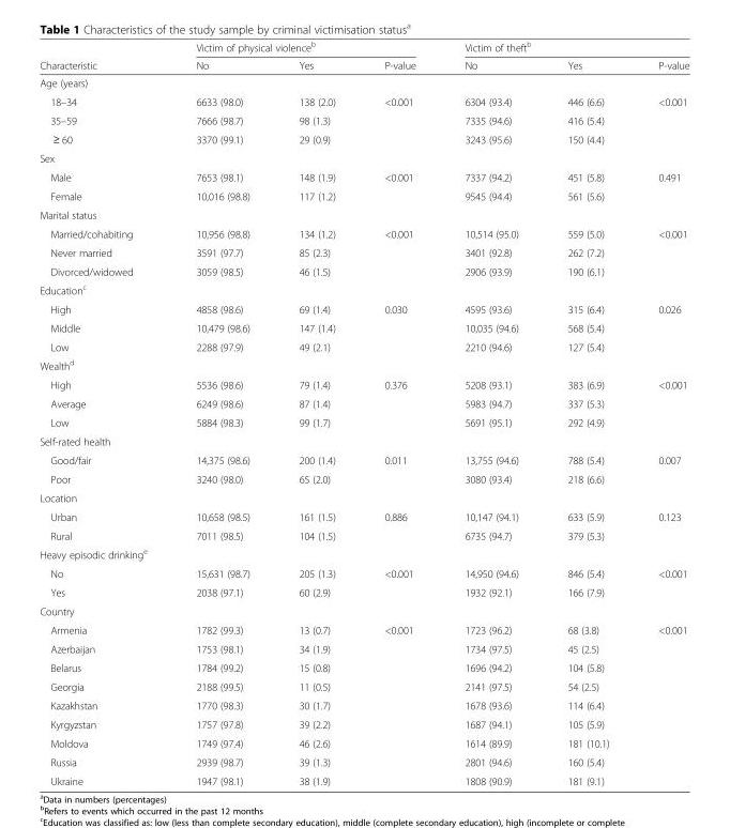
<table><thead><tr><td rowspan="2">Characteristic</td><td colspan="3">Victim of physical violence<sup>b</sup></td><td colspan="3">Victim of theft<sup>b</sup></td></tr><tr><td>No</td><td>Yes</td><td>P-value</td><td>No</td><td>Yes</td><td>P-value</td></tr></thead><tbody><tr><td colspan="7">Age (years)</td></tr><tr><td>18–34</td><td>6633 (98.0)</td><td>138 (2.0)</td><td>&lt;0.001</td><td>6304 (93.4)</td><td>446 (6.6)</td><td>&lt;0.001</td></tr><tr><td>35–59</td><td>7666 (98.7)</td><td>98 (1.3)</td><td></td><td>7335 (94.6)</td><td>416 (5.4)</td><td></td></tr><tr><td>≥ 60</td><td>3370 (99.1)</td><td>29 (0.9)</td><td></td><td>3243 (95.6)</td><td>150 (4.4)</td><td></td></tr><tr><td colspan="7">Sex</td></tr><tr><td>Male</td><td>7653 (98.1)</td><td>148 (1.9)</td><td>&lt;0.001</td><td>7337 (94.2)</td><td>451 (5.8)</td><td>0.491</td></tr><tr><td>Female</td><td>10,016 (98.8)</td><td>117 (1.2)</td><td></td><td>9545 (94.4)</td><td>561 (5.6)</td><td></td></tr><tr><td colspan="7">Marital status</td></tr><tr><td>Married/cohabiting</td><td>10,956 (98.8)</td><td>134 (1.2)</td><td>&lt;0.001</td><td>10,514 (95.0)</td><td>559 (5.0)</td><td>&lt;0.001</td></tr><tr><td>Never married</td><td>3591 (97.7)</td><td>85 (2.3)</td><td></td><td>3401 (92.8)</td><td>262 (7.2)</td><td></td></tr><tr><td>Divorced/widowed</td><td>3059 (98.5)</td><td>46 (1.5)</td><td></td><td>2906 (93.9)</td><td>190 (6.1)</td><td></td></tr><tr><td colspan="7">Education<sup>c</sup></td></tr><tr><td>High</td><td>4858 (98.6)</td><td>69 (1.4)</td><td>0.030</td><td>4595 (93.6)</td><td>315 (6.4)</td><td>0.026</td></tr><tr><td>Middle</td><td>10,479 (98.6)</td><td>147 (1.4)</td><td></td><td>10,035 (94.6)</td><td>568 (5.4)</td><td></td></tr><tr><td>Low</td><td>2288 (97.9)</td><td>49 (2.1)</td><td></td><td>2210 (94.6)</td><td>127 (5.4)</td><td></td></tr><tr><td colspan="7">Wealth<sup>d</sup></td></tr><tr><td>High</td><td>5536 (98.6)</td><td>79 (1.4)</td><td>0.376</td><td>5208 (93.1)</td><td>383 (6.9)</td><td>&lt;0.001</td></tr><tr><td>Average</td><td>6249 (98.6)</td><td>87 (1.4)</td><td></td><td>5983 (94.7)</td><td>337 (5.3)</td><td></td></tr><tr><td>Low</td><td>5884 (98.3)</td><td>99 (1.7)</td><td></td><td>5691 (95.1)</td><td>292 (4.9)</td><td></td></tr><tr><td colspan="7">Self-rated health</td></tr><tr><td>Good/fair</td><td>14,375 (98.6)</td><td>200 (1.4)</td><td>0.011</td><td>13,755 (94.6)</td><td>788 (5.4)</td><td>0.007</td></tr><tr><td>Poor</td><td>3240 (98.0)</td><td>65 (2.0)</td><td></td><td>3080 (93.4)</td><td>218 (6.6)</td><td></td></tr><tr><td colspan="7">Location</td></tr><tr><td>Urban</td><td>10,658 (98.5)</td><td>161 (1.5)</td><td>0.886</td><td>10,147 (94.1)</td><td>633 (5.9)</td><td>0.123</td></tr><tr><td>Rural</td><td>7011 (98.5)</td><td>104 (1.5)</td><td></td><td>6735 (94.7)</td><td>379 (5.3)</td><td></td></tr><tr><td colspan="7">Heavy episodic drinking<sup>e</sup></td></tr><tr><td>No</td><td>15,631 (98.7)</td><td>205 (1.3)</td><td>&lt;0.001</td><td>14,950 (94.6)</td><td>846 (5.4)</td><td>&lt;0.001</td></tr><tr><td>Yes</td><td>2038 (97.1)</td><td>60 (2.9)</td><td></td><td>1932 (92.1)</td><td>166 (7.9)</td><td></td></tr><tr><td colspan="7">Country</td></tr><tr><td>Armenia</td><td>1782 (99.3)</td><td>13 (0.7)</td><td>&lt;0.001</td><td>1723 (96.2)</td><td>68 (3.8)</td><td>&lt;0.001</td></tr><tr><td>Azerbaijan</td><td>1753 (98.1)</td><td>34 (1.9)</td><td></td><td>1734 (97.5)</td><td>45 (2.5)</td><td></td></tr><tr><td>Belarus</td><td>1784 (99.2)</td><td>15 (0.8)</td><td></td><td>1696 (94.2)</td><td>104 (5.8)</td><td></td></tr><tr><td>Georgia</td><td>2188 (99.5)</td><td>11 (0.5)</td><td></td><td>2141 (97.5)</td><td>54 (2.5)</td><td></td></tr><tr><td>Kazakhstan</td><td>1770 (98.3)</td><td>30 (1.7)</td><td></td><td>1678 (93.6)</td><td>114 (6.4)</td><td></td></tr><tr><td>Kyrgyzstan</td><td>1757 (97.8)</td><td>39 (2.2)</td><td></td><td>1687 (94.1)</td><td>105 (5.9)</td><td></td></tr><tr><td>Moldova</td><td>1749 (97.4)</td><td>46 (2.6)</td><td></td><td>1614 (89.9)</td><td>181 (10.1)</td><td></td></tr><tr><td>Russia</td><td>2939 (98.7)</td><td>39 (1.3)</td><td></td><td>2801 (94.6)</td><td>160 (5.4)</td><td></td></tr><tr><td>Ukraine</td><td>1947 (98.1)</td><td>38 (1.9)</td><td></td><td>1808 (90.9)</td><td>181 (9.1)</td><td></td></tr></tbody></table>